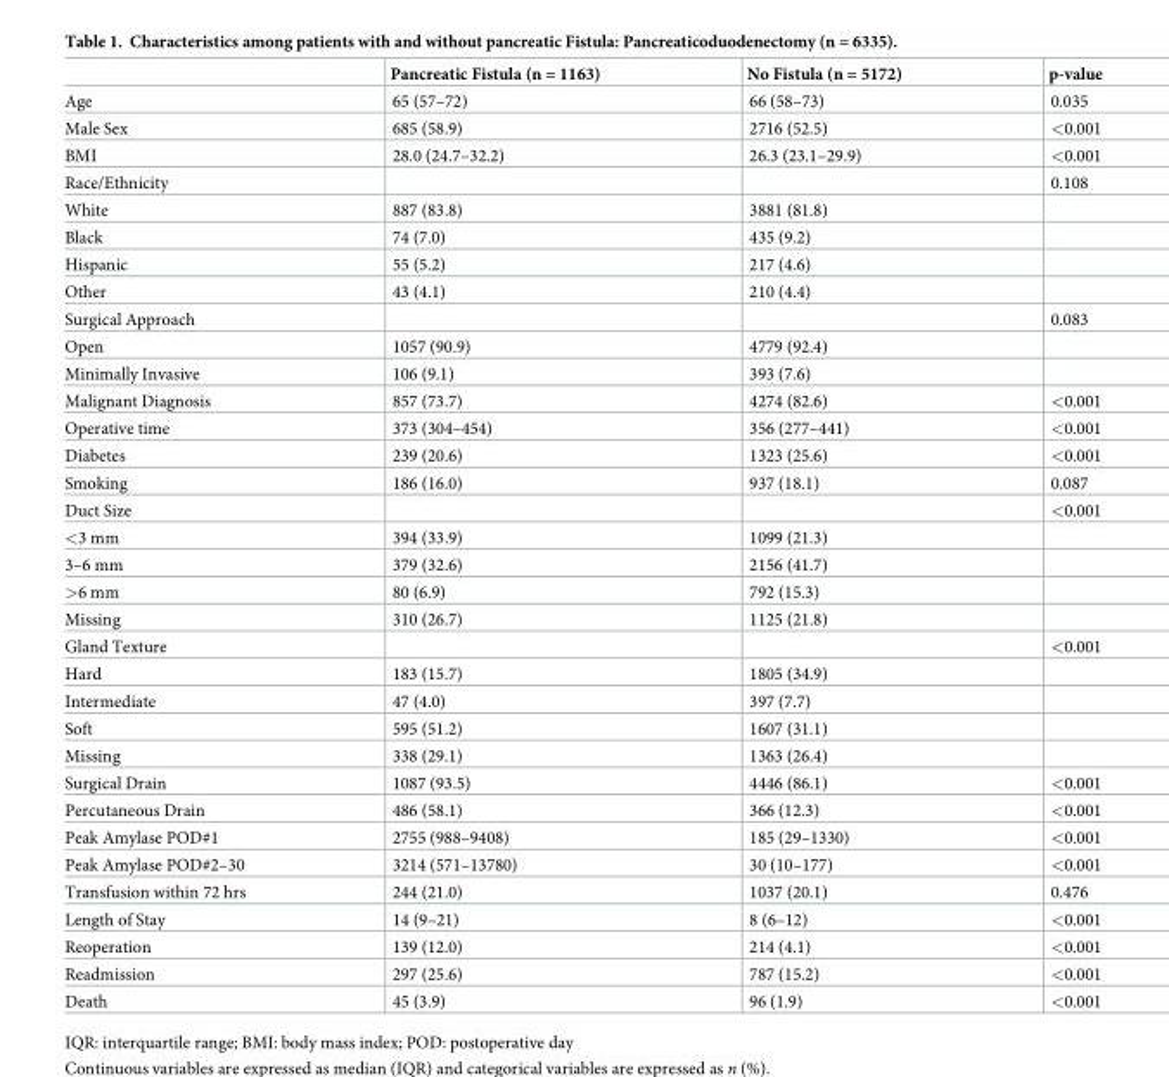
<table><thead><tr><td></td><td>Pancreatic Fistula (n = 1163)</td><td>No Fistula (n = 5172)</td><td>p-value</td></tr></thead><tbody><tr><td>Age</td><td>65 (57–72)</td><td>66 (58–73)</td><td>0.035</td></tr><tr><td>Male Sex</td><td>685 (58.9)</td><td>2716 (52.5)</td><td>&lt;0.001</td></tr><tr><td>BMI</td><td>28.0 (24.7–32.2)</td><td>26.3 (23.1–29.9)</td><td>&lt;0.001</td></tr><tr><td>Race/Ethnicity</td><td></td><td></td><td>0.108</td></tr><tr><td>White</td><td>887 (83.8)</td><td>3881 (81.8)</td><td></td></tr><tr><td>Black</td><td>74 (7.0)</td><td>435 (9.2)</td><td></td></tr><tr><td>Hispanic</td><td>55 (5.2)</td><td>217 (4.6)</td><td></td></tr><tr><td>Other</td><td>43 (4.1)</td><td>210 (4.4)</td><td></td></tr><tr><td>Surgical Approach</td><td></td><td></td><td>0.083</td></tr><tr><td>Open</td><td>1057 (90.9)</td><td>4779 (92.4)</td><td></td></tr><tr><td>Minimally Invasive</td><td>106 (9.1)</td><td>393 (7.6)</td><td></td></tr><tr><td>Malignant Diagnosis</td><td>857 (73.7)</td><td>4274 (82.6)</td><td>&lt;0.001</td></tr><tr><td>Operative time</td><td>373 (304–454)</td><td>356 (277–441)</td><td>&lt;0.001</td></tr><tr><td>Diabetes</td><td>239 (20.6)</td><td>1323 (25.6)</td><td>&lt;0.001</td></tr><tr><td>Smoking</td><td>186 (16.0)</td><td>937 (18.1)</td><td>0.087</td></tr><tr><td>Duct Size</td><td></td><td></td><td>&lt;0.001</td></tr><tr><td>&lt;3 mm</td><td>394 (33.9)</td><td>1099 (21.3)</td><td></td></tr><tr><td>3–6 mm</td><td>379 (32.6)</td><td>2156 (41.7)</td><td></td></tr><tr><td>&gt;6 mm</td><td>80 (6.9)</td><td>792 (15.3)</td><td></td></tr><tr><td>Missing</td><td>310 (26.7)</td><td>1125 (21.8)</td><td></td></tr><tr><td>Gland Texture</td><td></td><td></td><td>&lt;0.001</td></tr><tr><td>Hard</td><td>183 (15.7)</td><td>1805 (34.9)</td><td></td></tr><tr><td>Intermediate</td><td>47 (4.0)</td><td>397 (7.7)</td><td></td></tr><tr><td>Soft</td><td>595 (51.2)</td><td>1607 (31.1)</td><td></td></tr><tr><td>Missing</td><td>338 (29.1)</td><td>1363 (26.4)</td><td></td></tr><tr><td>Surgical Drain</td><td>1087 (93.5)</td><td>4446 (86.1)</td><td>&lt;0.001</td></tr><tr><td>Percutaneous Drain</td><td>486 (58.1)</td><td>366 (12.3)</td><td>&lt;0.001</td></tr><tr><td>Peak Amylase POD#1</td><td>2755 (988–9408)</td><td>185 (29–1330)</td><td>&lt;0.001</td></tr><tr><td>Peak Amylase POD#2–30</td><td>3214 (571–13780)</td><td>30 (10–177)</td><td>&lt;0.001</td></tr><tr><td>Transfusion within 72 hrs</td><td>244 (21.0)</td><td>1037 (20.1)</td><td>0.476</td></tr><tr><td>Length of Stay</td><td>14 (9–21)</td><td>8 (6–12)</td><td>&lt;0.001</td></tr><tr><td>Reoperation</td><td>139 (12.0)</td><td>214 (4.1)</td><td>&lt;0.001</td></tr><tr><td>Readmission</td><td>297 (25.6)</td><td>787 (15.2)</td><td>&lt;0.001</td></tr><tr><td>Death</td><td>45 (3.9)</td><td>96 (1.9)</td><td>&lt;0.001</td></tr></tbody></table>